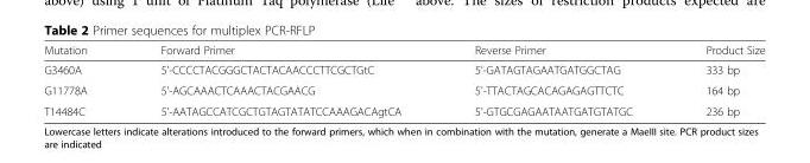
<table><thead><tr><td>Mutation</td><td>Forward Primer</td><td>Reverse Primer</td><td>Product Size</td></tr></thead><tbody><tr><td>G3460A</td><td>5&#x27;-CCCCTACGGGCTACTACAACCCTTCGCTGtC</td><td>5&#x27;-GATAGTAGAATGATGGCTAG</td><td>333 bp</td></tr><tr><td>G11778A</td><td>5&#x27;-AGCAAACTCAAACTACGAACG</td><td>5&#x27;-TTACTAGCACAGAGAGTTCTC</td><td>164 bp</td></tr><tr><td>T14484C</td><td>5&#x27;-AATAGCCATCGCTGTAGTATATCCAAAGACAgtCA</td><td>5&#x27;-GTGCGAGAATAATGATGTATGC</td><td>236 bp</td></tr></tbody></table>